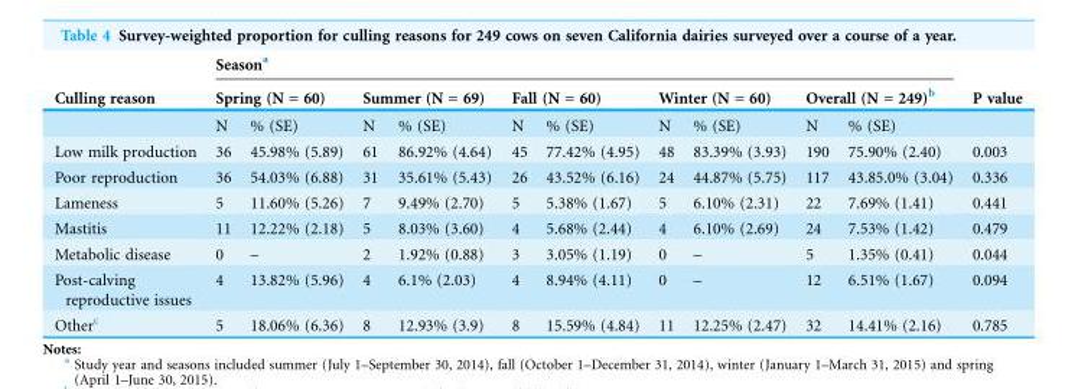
<table><thead><tr><td rowspan="3">Culling reason</td><td colspan="10">Season<sup>a</sup></td><td rowspan="3">P value</td></tr><tr><td colspan="2">Spring (N = 60)</td><td colspan="2">Summer (N = 69)</td><td colspan="2">Fall (N = 60)</td><td colspan="2">Winter (N = 60)</td><td colspan="2">Overall (N = 249)<sup>b</sup></td></tr><tr><td>N</td><td>% (SE)</td><td>N</td><td>% (SE)</td><td>N</td><td>% (SE)</td><td>N</td><td>% (SE)</td><td>N</td><td>% (SE)</td></tr></thead><tbody><tr><td>Low milk production</td><td>36</td><td>45.98% (5.89)</td><td>61</td><td>86.92% (4.64)</td><td>45</td><td>77.42% (4.95)</td><td>48</td><td>83.39% (3.93)</td><td>190</td><td>75.90% (2.40)</td><td>0.003</td></tr><tr><td>Poor reproduction</td><td>36</td><td>54.03% (6.88)</td><td>31</td><td>35.61% (5.43)</td><td>26</td><td>43.52% (6.16)</td><td>24</td><td>44.87% (5.75)</td><td>117</td><td>43.85.0% (3.04)</td><td>0.336</td></tr><tr><td>Lameness</td><td>5</td><td>11.60% (5.26)</td><td>7</td><td>9.49% (2.70)</td><td>5</td><td>5.38% (1.67)</td><td>5</td><td>6.10% (2.31)</td><td>22</td><td>7.69% (1.41)</td><td>0.441</td></tr><tr><td>Mastitis</td><td>11</td><td>12.22% (2.18)</td><td>5</td><td>8.03% (3.60)</td><td>4</td><td>5.68% (2.44)</td><td>4</td><td>6.10% (2.69)</td><td>24</td><td>7.53% (1.42)</td><td>0.479</td></tr><tr><td>Metabolic disease</td><td>0</td><td>–</td><td>2</td><td>1.92% (0.88)</td><td>3</td><td>3.05% (1.19)</td><td>0</td><td>–</td><td>5</td><td>1.35% (0.41)</td><td>0.044</td></tr><tr><td>Post-calving reproductive issues</td><td>4</td><td>13.82% (5.96)</td><td>4</td><td>6.1% (2.03)</td><td>4</td><td>8.94% (4.11)</td><td>0</td><td>–</td><td>12</td><td>6.51% (1.67)</td><td>0.094</td></tr><tr><td>Other<sup>c</sup></td><td>5</td><td>18.06% (6.36)</td><td>8</td><td>12.93% (3.9)</td><td>8</td><td>15.59% (4.84)</td><td>11</td><td>12.25% (2.47)</td><td>32</td><td>14.41% (2.16)</td><td>0.785</td></tr></tbody></table>